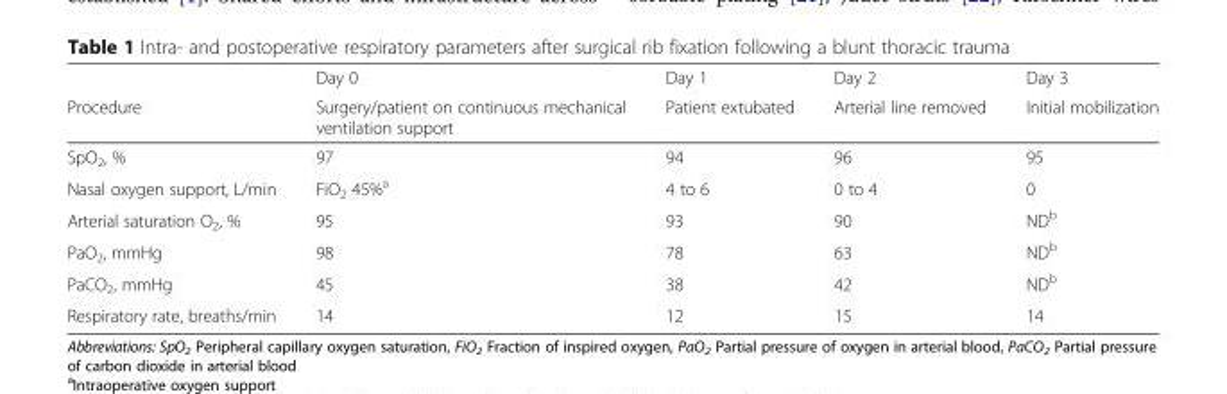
<table><thead><tr><td rowspan="2">Procedure</td><td rowspan="2">Day 0 Surgery/patient on continuous mechanical ventilation support</td><td rowspan="2">Day 1 Patient extubated</td><td rowspan="2">Day 2 Arterial line removed</td><td rowspan="2">Day 3 Initial mobilization</td></tr><tr></tr></thead><tbody><tr><td>SpO<sub>2</sub>, %</td><td>97</td><td>94</td><td>96</td><td>95</td></tr><tr><td>Nasal oxygen support, L/min</td><td>FiO<sub>2</sub> 45%<sup>a</sup></td><td>4 to 6</td><td>0 to 4</td><td>0</td></tr><tr><td>Arterial saturation O<sub>2</sub>, %</td><td>95</td><td>93</td><td>90</td><td>ND<sup>b</sup></td></tr><tr><td>PaO<sub>2</sub>, mmHg</td><td>98</td><td>78</td><td>63</td><td>ND<sup>b</sup></td></tr><tr><td>PaCO<sub>2</sub>, mmHg</td><td>45</td><td>38</td><td>42</td><td>ND<sup>b</sup></td></tr><tr><td>Respiratory rate, breaths/min</td><td>14</td><td>12</td><td>15</td><td>14</td></tr></tbody></table>